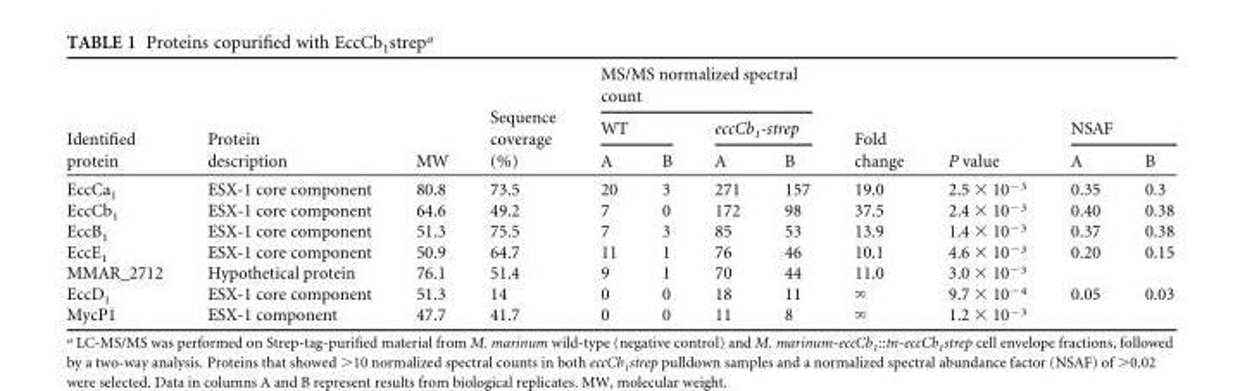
<table><thead><tr><td rowspan="3">Identified protein</td><td rowspan="3">Protein description</td><td rowspan="3">MW</td><td rowspan="3">Sequence coverage (%)</td><td colspan="4">MS/MS normalized spectral count</td><td rowspan="3">Fold change</td><td rowspan="3">P value</td><td rowspan="2" colspan="2">NSAF</td></tr><tr><td colspan="2">WT</td><td colspan="2">eccCb<sub>1</sub>-strep</td></tr><tr><td>A</td><td>B</td><td>A</td><td>B</td><td>A</td><td>B</td></tr></thead><tbody><tr><td>EccCa<sub>1</sub></td><td>ESX-1 core component</td><td>80.8</td><td>73.5</td><td>20</td><td>3</td><td>271</td><td>157</td><td>19.0</td><td>2.5 × 10<sup>−3</sup></td><td>0.35</td><td>0.3</td></tr><tr><td>EccCb<sub>1</sub></td><td>ESX-1 core component</td><td>64.6</td><td>49.2</td><td>7</td><td>0</td><td>172</td><td>98</td><td>37.5</td><td>2.4 × 10<sup>−3</sup></td><td>0.40</td><td>0.38</td></tr><tr><td>EccB<sub>1</sub></td><td>ESX-1 core component</td><td>51.3</td><td>75.5</td><td>7</td><td>3</td><td>85</td><td>53</td><td>13.9</td><td>1.4 × 10<sup>−3</sup></td><td>0.37</td><td>0.38</td></tr><tr><td>EccE<sub>1</sub></td><td>ESX-1 core component</td><td>50.9</td><td>64.7</td><td>11</td><td>1</td><td>76</td><td>46</td><td>10.1</td><td>4.6 × 10<sup>−3</sup></td><td>0.20</td><td>0.15</td></tr><tr><td>MMAR_2712</td><td>Hypothetical protein</td><td>76.1</td><td>51.4</td><td>9</td><td>1</td><td>70</td><td>44</td><td>11.0</td><td>3.0 × 10<sup>−3</sup></td><td></td><td></td></tr><tr><td>EccD<sub>1</sub></td><td>ESX-1 core component</td><td>51.3</td><td>14</td><td>0</td><td>0</td><td>18</td><td>11</td><td>∞</td><td>9.7 × 10<sup>−4</sup></td><td>0.05</td><td>0.03</td></tr><tr><td>MycP1</td><td>ESX-1 component</td><td>47.7</td><td>41.7</td><td>0</td><td>0</td><td>11</td><td>8</td><td>∞</td><td>1.2 × 10<sup>−3</sup></td><td></td><td></td></tr></tbody></table>